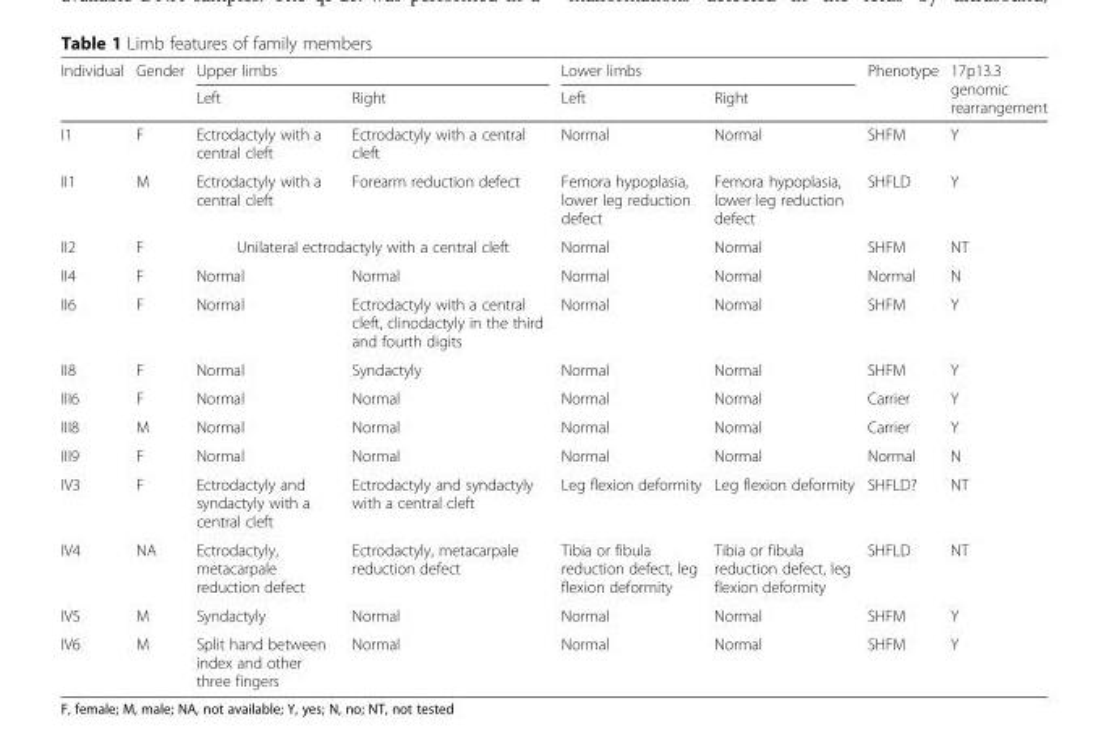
<table><thead><tr><td rowspan="2">Individual</td><td rowspan="2">Gender</td><td colspan="2">Upper limbs</td><td colspan="2">Lower limbs</td><td rowspan="2">Phenotype</td><td rowspan="2">17p13.3 genomic rearrangement</td></tr><tr><td>Left</td><td>Right</td><td>Left</td><td>Right</td></tr></thead><tbody><tr><td>I1</td><td>F</td><td>Ectrodactyly with a central cleft</td><td>Ectrodactyly with a central cleft</td><td>Normal</td><td>Normal</td><td>SHFM</td><td>Y</td></tr><tr><td>II1</td><td>M</td><td>Ectrodactyly with a central cleft</td><td>Forearm reduction defect</td><td>Femora hypoplasia, lower leg reduction defect</td><td>Femora hypoplasia, lower leg reduction defect</td><td>SHFLD</td><td>Y</td></tr><tr><td>II2</td><td>F</td><td colspan="2">Unilateral ectrodactyly with a central cleft</td><td>Normal</td><td>Normal</td><td>SHFM</td><td>NT</td></tr><tr><td>II4</td><td>F</td><td>Normal</td><td>Normal</td><td>Normal</td><td>Normal</td><td>Normal</td><td>N</td></tr><tr><td>II6</td><td>F</td><td>Normal</td><td>Ectrodactyly with a central cleft, clinodactyly in the third and fourth digits</td><td>Normal</td><td>Normal</td><td>SHFM</td><td>Y</td></tr><tr><td>II8</td><td>F</td><td>Normal</td><td>Syndactyly</td><td>Normal</td><td>Normal</td><td>SHFM</td><td>Y</td></tr><tr><td>III6</td><td>F</td><td>Normal</td><td>Normal</td><td>Normal</td><td>Normal</td><td>Carrier</td><td>Y</td></tr><tr><td>III8</td><td>M</td><td>Normal</td><td>Normal</td><td>Normal</td><td>Normal</td><td>Carrier</td><td>Y</td></tr><tr><td>III9</td><td>F</td><td>Normal</td><td>Normal</td><td>Normal</td><td>Normal</td><td>Normal</td><td>N</td></tr><tr><td>IV3</td><td>F</td><td>Ectrodactyly and syndactyly with a central cleft</td><td>Ectrodactyly and syndactyly with a central cleft</td><td>Leg flexion deformity</td><td>Leg flexion deformity</td><td>SHFLD?</td><td>NT</td></tr><tr><td>IV4</td><td>NA</td><td>Ectrodactyly, metacarpale reduction defect</td><td>Ectrodactyly, metacarpale reduction defect</td><td>Tibia or fibula reduction defect, leg flexion deformity</td><td>Tibia or fibula reduction defect, leg flexion deformity</td><td>SHFLD</td><td>NT</td></tr><tr><td>IV5</td><td>M</td><td>Syndactyly</td><td>Normal</td><td>Normal</td><td>Normal</td><td>SHFM</td><td>Y</td></tr><tr><td>IV6</td><td>M</td><td>Split hand between index and other three fingers</td><td>Normal</td><td>Normal</td><td>Normal</td><td>SHFM</td><td>Y</td></tr></tbody></table>